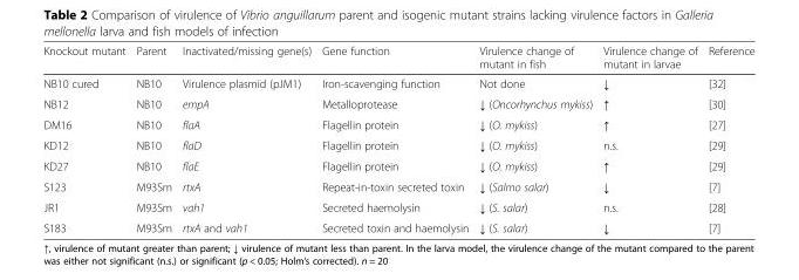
<table><thead><tr><td>Knockout mutant</td><td>Parent</td><td>Inactivated/missing gene(s)</td><td>Gene function</td><td>Virulence change of mutant in fish</td><td>Virulence change of mutant in larvae</td><td>Reference</td></tr></thead><tbody><tr><td>NB10 cured</td><td>NB10</td><td>Virulence plasmid (pJM1)</td><td>Iron-scavenging function</td><td>Not done</td><td>↓</td><td>[32]</td></tr><tr><td>NB12</td><td>NB10</td><td>empA</td><td>Metalloprotease</td><td>↓ (Oncorhynchus mykiss)</td><td>↑</td><td>[30]</td></tr><tr><td>DM16</td><td>NB10</td><td>flaA</td><td>Flagellin protein</td><td>↓ (O. mykiss)</td><td>↑</td><td>[27]</td></tr><tr><td>KD12</td><td>NB10</td><td>flaD</td><td>Flagellin protein</td><td>↓ (O. mykiss)</td><td>n.s.</td><td>[29]</td></tr><tr><td>KD27</td><td>NB10</td><td>flaE</td><td>Flagellin protein</td><td>↓ (O. mykiss)</td><td>↑</td><td>[29]</td></tr><tr><td>S123</td><td>M93Sm</td><td>rtxA</td><td>Repeat-in-toxin secreted toxin</td><td>↓ (Salmo salar)</td><td>↓</td><td>[7]</td></tr><tr><td>JR1</td><td>M93Sm</td><td>vah1</td><td>Secreted haemolysin</td><td>↓ (S. salar)</td><td>n.s.</td><td>[28]</td></tr><tr><td>S183</td><td>M93Sm</td><td>rtxA and vah1</td><td>Secreted toxin and haemolysin</td><td>↓ (S. salar)</td><td>↓</td><td>[7]</td></tr></tbody></table>